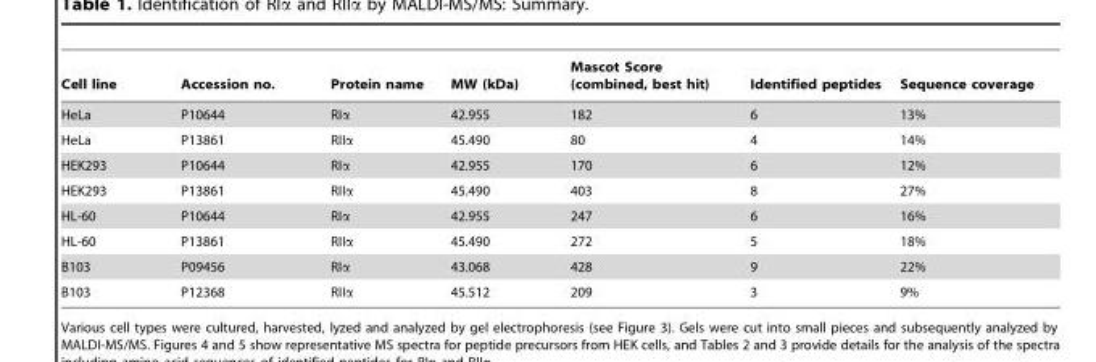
<table><thead><tr><td>Cell line</td><td>Accession no.</td><td>Protein name</td><td>MW (kDa)</td><td>Mascot Score (combined, best hit)</td><td>Identified peptides</td><td>Sequence coverage</td></tr></thead><tbody><tr><td>HeLa</td><td>P10644</td><td>RIα</td><td>42.955</td><td>182</td><td>6</td><td>13%</td></tr><tr><td>HeLa</td><td>P13861</td><td>RIIα</td><td>45.490</td><td>80</td><td>4</td><td>14%</td></tr><tr><td>HEK293</td><td>P10644</td><td>RIα</td><td>42.955</td><td>170</td><td>6</td><td>12%</td></tr><tr><td>HEK293</td><td>P13861</td><td>RIIα</td><td>45.490</td><td>403</td><td>8</td><td>27%</td></tr><tr><td>HL-60</td><td>P10644</td><td>RIα</td><td>42.955</td><td>247</td><td>6</td><td>16%</td></tr><tr><td>HL-60</td><td>P13861</td><td>RIIα</td><td>45.490</td><td>272</td><td>5</td><td>18%</td></tr><tr><td>B103</td><td>P09456</td><td>RIα</td><td>43.068</td><td>428</td><td>9</td><td>22%</td></tr><tr><td>B103</td><td>P12368</td><td>RIIα</td><td>45.512</td><td>209</td><td>3</td><td>9%</td></tr></tbody></table>